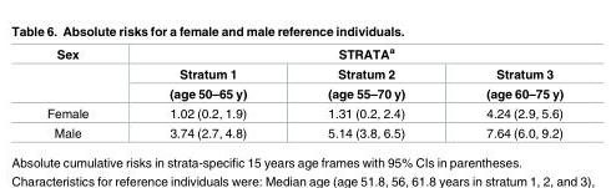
<table><thead><tr><td rowspan="3">Sex</td><td colspan="3">STRATA<sup>a</sup></td></tr><tr><td rowspan="2">Stratum 1 (age 50–65 y)</td><td rowspan="2">Stratum 2 (age 55–70 y)</td><td rowspan="2">Stratum 3 (age 60–75 y)</td></tr><tr></tr></thead><tbody><tr><td>Female</td><td>1.02 (0.2, 1.9)</td><td>1.31 (0.2, 2.4)</td><td>4.24 (2.9, 5.6)</td></tr><tr><td>Male</td><td>3.74 (2.7, 4.8)</td><td>5.14 (3.8, 6.5)</td><td>7.64 (6.0, 9.2)</td></tr></tbody></table>